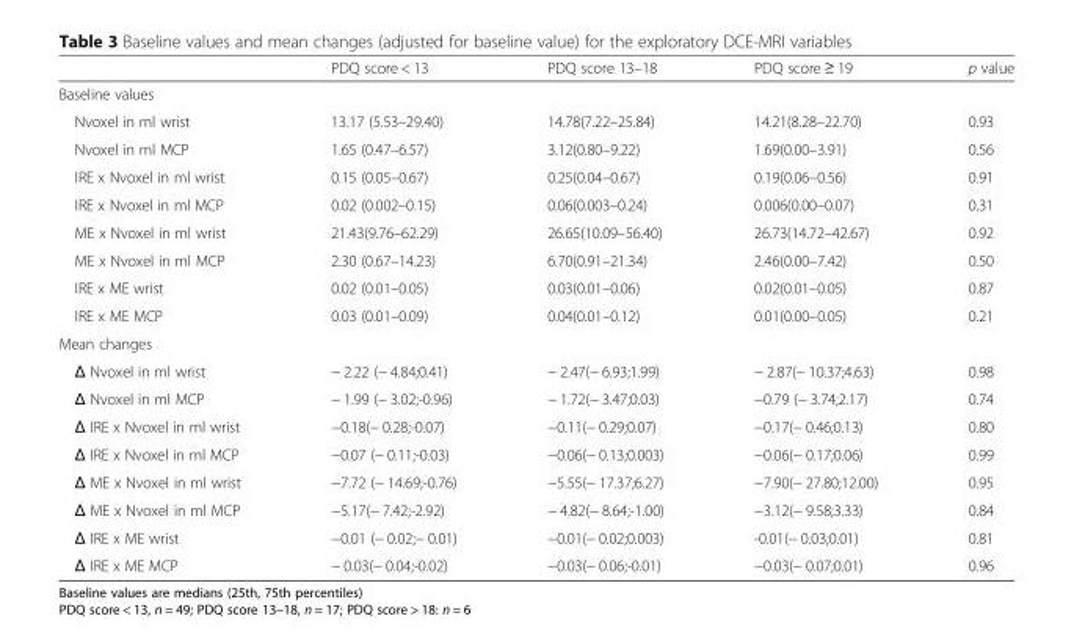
<table><thead><tr><td></td><td>PDQ score &lt; 13</td><td>PDQ score 13–18</td><td>PDQ score ≥ 19</td><td>p value</td></tr></thead><tbody><tr><td colspan="5">Baseline values</td></tr><tr><td>Nvoxel in ml wrist</td><td>13.17 (5.53–29.40)</td><td>14.78(7.22–25.84)</td><td>14.21(8.28–22.70)</td><td>0.93</td></tr><tr><td>Nvoxel in ml MCP</td><td>1.65 (0.47–6.57)</td><td>3.12(0.80–9.22)</td><td>1.69(0.00–3.91)</td><td>0.56</td></tr><tr><td>IRE x Nvoxel in ml wrist</td><td>0.15 (0.05–0.67)</td><td>0.25(0.04–0.67)</td><td>0.19(0.06–0.56)</td><td>0.91</td></tr><tr><td>IRE x Nvoxel in ml MCP</td><td>0.02 (0.002–0.15)</td><td>0.06(0.003–0.24)</td><td>0.006(0.00–0.07)</td><td>0.31</td></tr><tr><td>ME x Nvoxel in ml wrist</td><td>21.43(9.76–62.29)</td><td>26.65(10.09–56.40)</td><td>26.73(14.72–42.67)</td><td>0.92</td></tr><tr><td>ME x Nvoxel in ml MCP</td><td>2.30 (0.67–14.23)</td><td>6.70(0.91–21.34)</td><td>2.46(0.00–7.42)</td><td>0.50</td></tr><tr><td>IRE x ME wrist</td><td>0.02 (0.01–0.05)</td><td>0.03(0.01–0.06)</td><td>0.02(0.01–0.05)</td><td>0.87</td></tr><tr><td>IRE x ME MCP</td><td>0.03 (0.01–0.09)</td><td>0.04(0.01–0.12)</td><td>0.01(0.00–0.05)</td><td>0.21</td></tr><tr><td colspan="5">Mean changes</td></tr><tr><td>Δ Nvoxel in ml wrist</td><td>− 2.22 (− 4.84;0.41)</td><td>− 2.47(− 6.93;1.99)</td><td>− 2.87(− 10.37;4.63)</td><td>0.98</td></tr><tr><td>Δ Nvoxel in ml MCP</td><td>− 1.99 (− 3.02;-0.96)</td><td>− 1.72(− 3.47;0.03)</td><td>−0.79 (− 3.74;2.17)</td><td>0.74</td></tr><tr><td>Δ IRE x Nvoxel in ml wrist</td><td>−0.18(− 0.28;-0.07)</td><td>−0.11(− 0.29;0.07)</td><td>−0.17(− 0.46;0.13)</td><td>0.80</td></tr><tr><td>Δ IRE x Nvoxel in ml MCP</td><td>−0.07 (− 0.11;-0.03)</td><td>−0.06(− 0.13;0.003)</td><td>−0.06(− 0.17;0.06)</td><td>0.99</td></tr><tr><td>Δ ME x Nvoxel in ml wrist</td><td>−7.72 (− 14.69;-0.76)</td><td>−5.55(− 17.37;6.27)</td><td>−7.90(− 27.80;12.00)</td><td>0.95</td></tr><tr><td>Δ ME x Nvoxel in ml MCP</td><td>−5.17(− 7.42;-2.92)</td><td>− 4.82(− 8.64;-1.00)</td><td>−3.12(− 9.58;3.33)</td><td>0.84</td></tr><tr><td>Δ IRE x ME wrist</td><td>−0.01 (− 0.02;− 0.01)</td><td>−0.01(− 0.02;0.003)</td><td>-0.01(− 0.03;0.01)</td><td>0.81</td></tr><tr><td>Δ IRE x ME MCP</td><td>− 0.03(− 0.04;-0.02)</td><td>−0.03(− 0.06;-0.01)</td><td>−0.03(− 0.07;0.01)</td><td>0.96</td></tr></tbody></table>